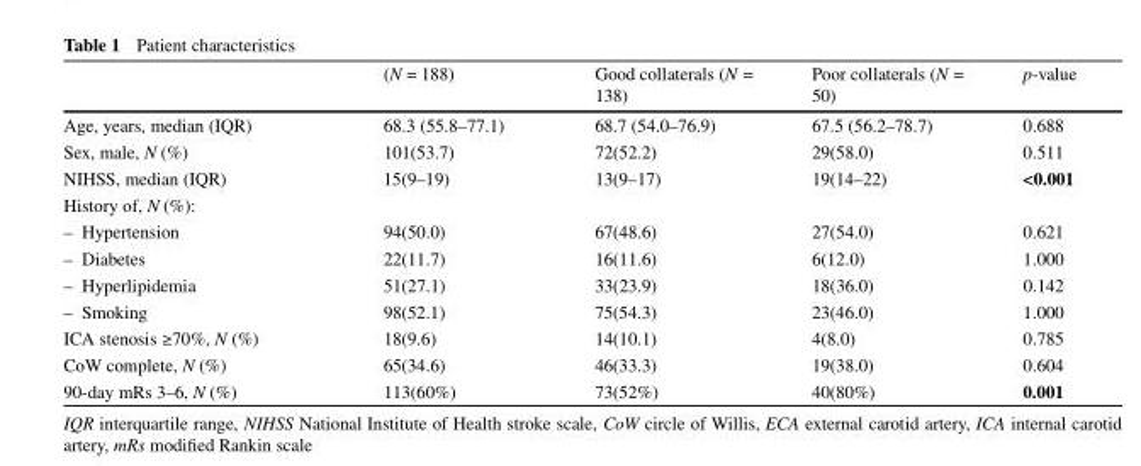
<table><thead><tr><td></td><td>(N = 188)</td><td>Good collaterals (N = 138)</td><td>Poor collaterals (N = 50)</td><td>p-value</td></tr></thead><tbody><tr><td>Age, years, median (IQR)</td><td>68.3 (55.8–77.1)</td><td>68.7 (54.0–76.9)</td><td>67.5 (56.2–78.7)</td><td>0.688</td></tr><tr><td>Sex, male, N (%)</td><td>101(53.7)</td><td>72(52.2)</td><td>29(58.0)</td><td>0.511</td></tr><tr><td>NIHSS, median (IQR)</td><td>15(9–19)</td><td>13(9–17)</td><td>19(14–22)</td><td>&lt;0.001</td></tr><tr><td colspan="5">History of, N (%):</td></tr><tr><td>– Hypertension</td><td>94(50.0)</td><td>67(48.6)</td><td>27(54.0)</td><td>0.621</td></tr><tr><td>– Diabetes</td><td>22(11.7)</td><td>16(11.6)</td><td>6(12.0)</td><td>1.000</td></tr><tr><td>– Hyperlipidemia</td><td>51(27.1)</td><td>33(23.9)</td><td>18(36.0)</td><td>0.142</td></tr><tr><td>– Smoking</td><td>98(52.1)</td><td>75(54.3)</td><td>23(46.0)</td><td>1.000</td></tr><tr><td>ICA stenosis ≥70%, N (%)</td><td>18(9.6)</td><td>14(10.1)</td><td>4(8.0)</td><td>0.785</td></tr><tr><td>CoW complete, N (%)</td><td>65(34.6)</td><td>46(33.3)</td><td>19(38.0)</td><td>0.604</td></tr><tr><td>90-day mRs 3–6, N (%)</td><td>113(60%)</td><td>73(52%)</td><td>40(80%)</td><td>0.001</td></tr></tbody></table>